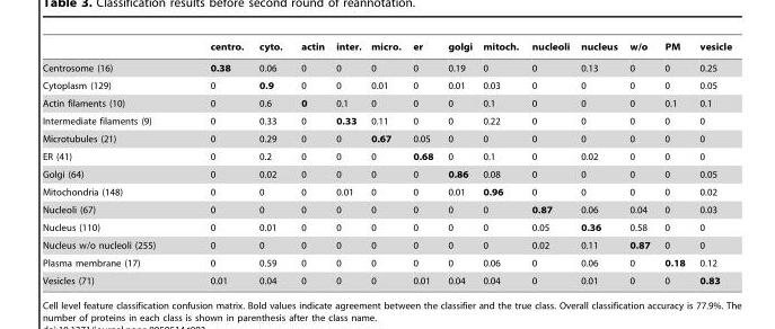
<table><thead><tr><td></td><td>centro.</td><td>cyto.</td><td>actin</td><td>inter.</td><td>micro.</td><td>er</td><td>golgi</td><td>mitoch.</td><td>nucleoli</td><td>nucleus</td><td>w/o</td><td>PM</td><td>vesicle</td></tr></thead><tbody><tr><td>Centrosome (16)</td><td>0.38</td><td>0.06</td><td>0</td><td>0</td><td>0</td><td>0</td><td>0.19</td><td>0</td><td>0</td><td>0.13</td><td>0</td><td>0</td><td>0.25</td></tr><tr><td>Cytoplasm (129)</td><td>0</td><td>0.9</td><td>0</td><td>0</td><td>0.01</td><td>0</td><td>0.01</td><td>0.03</td><td>0</td><td>0</td><td>0</td><td>0</td><td>0.05</td></tr><tr><td>Actin filaments (10)</td><td>0</td><td>0.6</td><td>0</td><td>0.1</td><td>0</td><td>0</td><td>0</td><td>0.1</td><td>0</td><td>0</td><td>0</td><td>0.1</td><td>0.1</td></tr><tr><td>Intermediate filaments (9)</td><td>0</td><td>0.33</td><td>0</td><td>0.33</td><td>0.11</td><td>0</td><td>0</td><td>0.22</td><td>0</td><td>0</td><td>0</td><td>0</td><td>0</td></tr><tr><td>Microtubules (21)</td><td>0</td><td>0.29</td><td>0</td><td>0</td><td>0.67</td><td>0.05</td><td>0</td><td>0</td><td>0</td><td>0</td><td>0</td><td>0</td><td>0</td></tr><tr><td>ER (41)</td><td>0</td><td>0.2</td><td>0</td><td>0</td><td>0</td><td>0.68</td><td>0</td><td>0.1</td><td>0</td><td>0.02</td><td>0</td><td>0</td><td>0</td></tr><tr><td>Golgi (64)</td><td>0</td><td>0.02</td><td>0</td><td>0</td><td>0</td><td>0</td><td>0.86</td><td>0.08</td><td>0</td><td>0</td><td>0</td><td>0</td><td>0.05</td></tr><tr><td>Mitochondria (148)</td><td>0</td><td>0</td><td>0</td><td>0.01</td><td>0</td><td>0</td><td>0.01</td><td>0.96</td><td>0</td><td>0</td><td>0</td><td>0</td><td>0.02</td></tr><tr><td>Nucleoli (67)</td><td>0</td><td>0</td><td>0</td><td>0</td><td>0</td><td>0</td><td>0</td><td>0</td><td>0.87</td><td>0.06</td><td>0.04</td><td>0</td><td>0.03</td></tr><tr><td>Nucleus (110)</td><td>0</td><td>0.01</td><td>0</td><td>0</td><td>0</td><td>0</td><td>0</td><td>0</td><td>0.05</td><td>0.36</td><td>0.58</td><td>0</td><td>0</td></tr><tr><td>Nucleus w/o nucleoli (255)</td><td>0</td><td>0</td><td>0</td><td>0</td><td>0</td><td>0</td><td>0</td><td>0</td><td>0.02</td><td>0.11</td><td>0.87</td><td>0</td><td>0</td></tr><tr><td>Plasma membrane (17)</td><td>0</td><td>0.59</td><td>0</td><td>0</td><td>0</td><td>0</td><td>0</td><td>0.06</td><td>0</td><td>0.06</td><td>0</td><td>0.18</td><td>0.12</td></tr><tr><td>Vesicles (71)</td><td>0.01</td><td>0.04</td><td>0</td><td>0</td><td>0</td><td>0.01</td><td>0.04</td><td>0.04</td><td>0</td><td>0.01</td><td>0</td><td>0</td><td>0.83</td></tr></tbody></table>